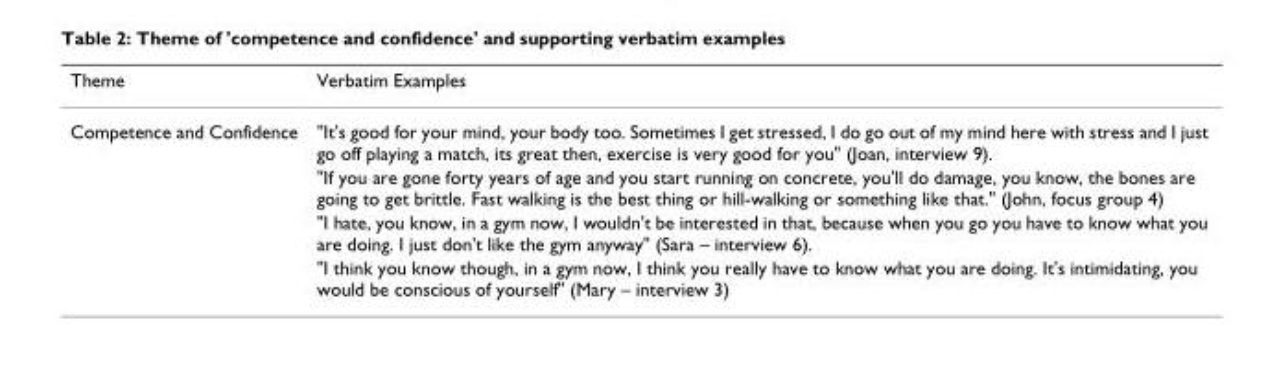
<table><thead><tr><td>Theme</td><td>Verbatim Examples</td></tr></thead><tbody><tr><td rowspan="4">Competence and Confidence</td><td>&quot;It&#x27;s good for your mind, your body too. Sometimes I get stressed, I do go out of my mind here with stress and I just go off playing a match, its great then, exercise is very good for you&quot; (Joan, interview 9).</td></tr><tr><td>&quot;If you are gone forty years of age and you start running on concrete, you&#x27;ll do damage, you know, the bones are going to get brittle. Fast walking is the best thing or hill-walking or something like that.&quot; (John, focus group 4)</td></tr><tr><td>&quot;I hate, you know, in a gym now, I wouldn&#x27;t be interested in that, because when you go you have to know what you are doing. I just don&#x27;t like the gym anyway&quot; (Sara – interview 6).</td></tr><tr><td>&quot;I think you know though, in a gym now, I think you really have to know what you are doing. It&#x27;s intimidating, you would be conscious of yourself&quot; (Mary – interview 3)</td></tr></tbody></table>